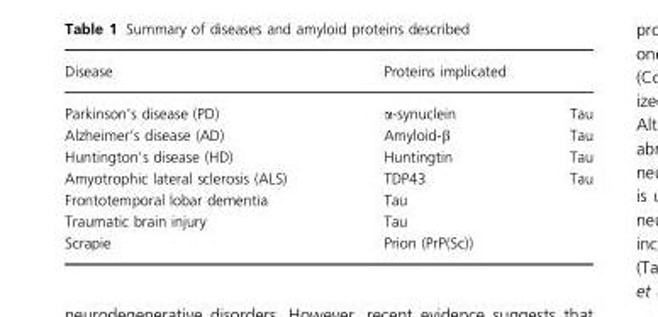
<table><thead><tr><td rowspan="2">Disease Parkinson’s disease (PD)</td><td colspan="2">Proteins implicated</td></tr><tr><td>α-synuclein</td><td>Tau</td></tr></thead><tbody><tr><td>Alzheimer’s disease (AD)</td><td>Amyloid-β</td><td>Tau</td></tr><tr><td>Huntington’s disease (HD)</td><td>Huntingtin</td><td>Tau</td></tr><tr><td>Amyotrophic lateral sclerosis (ALS)</td><td>TDP43</td><td>Tau</td></tr><tr><td>Frontotemporal lobar dementia</td><td>Tau</td><td></td></tr><tr><td>Traumatic brain injury</td><td>Tau</td><td></td></tr><tr><td>Scrapie</td><td>Prion (PrP(Sc))</td><td></td></tr></tbody></table>